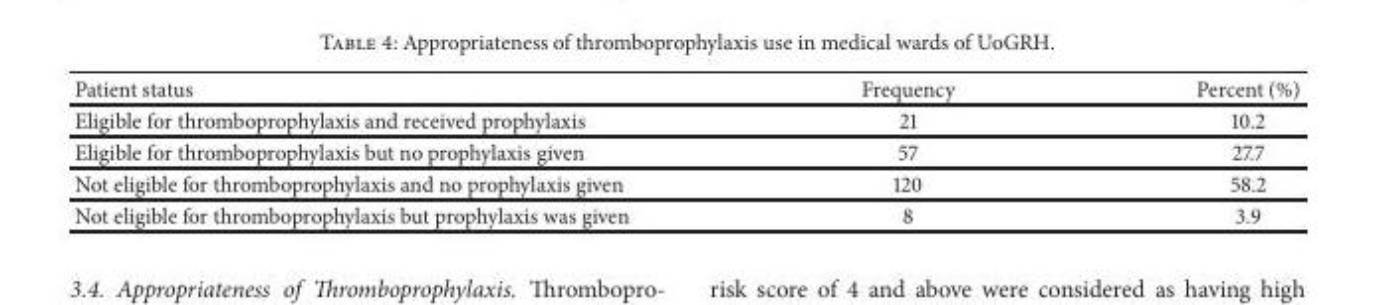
<table><thead><tr><td>Patient status</td><td>Frequency</td><td>Percent (%)</td></tr></thead><tbody><tr><td>Eligible for thromboprophylaxis and received prophylaxis</td><td>21</td><td>10.2</td></tr><tr><td>Eligible for thromboprophylaxis but no prophylaxis given</td><td>57</td><td>27.7</td></tr><tr><td>Not eligible for thromboprophylaxis and no prophylaxis given</td><td>120</td><td>58.2</td></tr><tr><td>Not eligible for thromboprophylaxis but prophylaxis was given</td><td>8</td><td>3.9</td></tr></tbody></table>